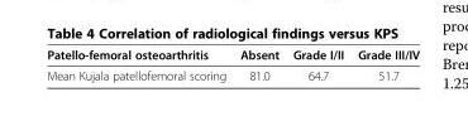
<table><thead><tr><td>Patello-femoral osteoarthritis</td><td>Absent</td><td>Grade I/II</td><td>Grade III/IV</td></tr></thead><tbody><tr><td>Mean Kujala patellofemoral scoring</td><td>81.0</td><td>64.7</td><td>51.7</td></tr></tbody></table>